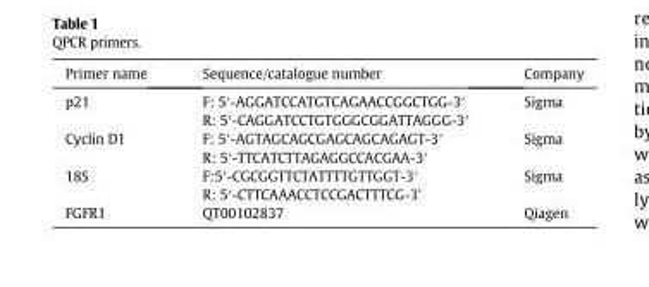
<table><thead><tr><td>Primer name</td><td>Sequence/catalogue number</td><td>Company</td></tr></thead><tbody><tr><td>p21</td><td>F: 5′-AGGATCCATGTCAGAACCGGCTGG-3′ R: 5′-CAGGATCCTGTGGGCGGATTAGGG-3′</td><td>Sigma</td></tr><tr><td>Cyclin D1</td><td>F: 5′-AGTAGCAGCGAGCAGCAGAGT-3′ R: 5′-TTCATCTTAGAGGCCACGAA-3′</td><td>Sigma</td></tr><tr><td>18S</td><td>F:5′-CGCGGTTCTATTTTGTTGGT-3′ R: 5′-CTTCAAACCTCCGACTTTCG-3’</td><td>Sigma</td></tr><tr><td>FGFR1</td><td>QT00102837</td><td>Qiagen</td></tr></tbody></table>